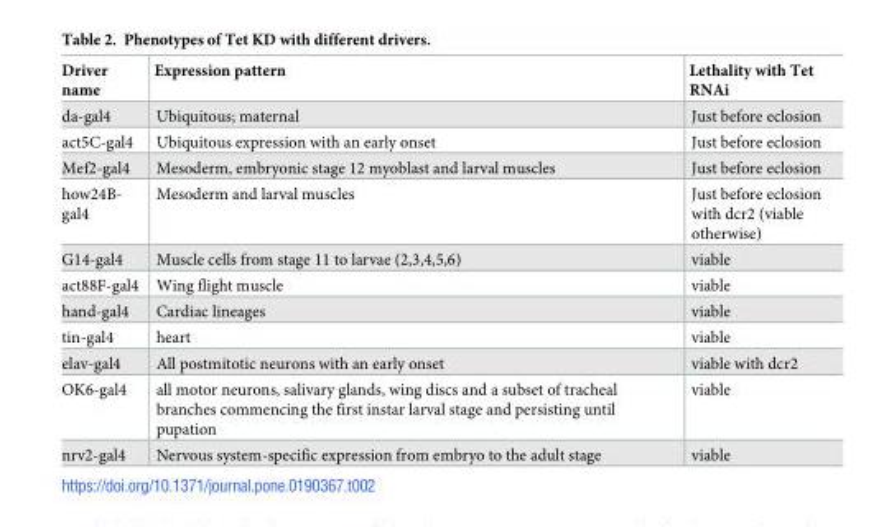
<table><thead><tr><td>Driver name</td><td>Expression pattern</td><td>Lethality with Tet RNAi</td></tr></thead><tbody><tr><td>da-gal4</td><td>Ubiquitous; maternal</td><td>Just before eclosion</td></tr><tr><td>act5C-gal4</td><td>Ubiquitous expression with an early onset</td><td>Just before eclosion</td></tr><tr><td>Mef2-gal4</td><td>Mesoderm, embryonic stage 12 myoblast and larval muscles</td><td>Just before eclosion</td></tr><tr><td>how24B- gal4</td><td>Mesoderm and larval muscles</td><td>Just before eclosion with dcr2 (viable otherwise)</td></tr><tr><td>G14-gal4</td><td>Muscle cells from stage 11 to larvae (2,3,4,5,6)</td><td>viable</td></tr><tr><td>act88F-gal4</td><td>Wing flight muscle</td><td>viable</td></tr><tr><td>hand-gal4</td><td>Cardiac lineages</td><td>viable</td></tr><tr><td>tin-gal4</td><td>heart</td><td>viable</td></tr><tr><td>elav-gal4</td><td>All postmitotic neurons with an early onset</td><td>viable with dcr2</td></tr><tr><td>OK6-gal4</td><td>all motor neurons, salivary glands, wing discs and a subset of tracheal branches commencing the first instar larval stage and persisting until pupation</td><td>viable</td></tr><tr><td>nrv2-gal4</td><td>Nervous system-specific expression from embryo to the adult stage</td><td>viable</td></tr></tbody></table>